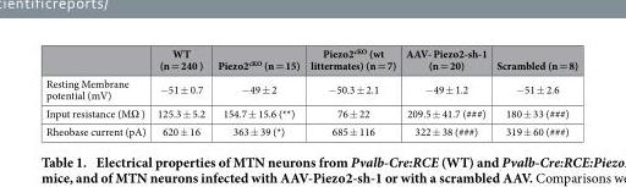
<table><thead><tr><td></td><td>WT (n = 240 )</td><td>Piezo2<sup>cKO</sup> (n = 15)</td><td>Piezo2<sup>cKO</sup> (wt littermates) (n = 7)</td><td>AAV- Piezo2-sh-1 (n = 20)</td><td>Scrambled (n = 8)</td></tr></thead><tbody><tr><td>Resting Membrane potential (mV)</td><td>− 51 ± 0.7</td><td>− 49 ± 2</td><td>− 50.3 ± 2.1</td><td>− 49 ± 1.2</td><td>− 51 ± 2.6</td></tr><tr><td>Input resistance (MΩ )</td><td>125.3 ± 5.2</td><td>154.7 ± 15.6 (**)</td><td>76 ± 22</td><td>209.5 ± 41.7 (###)</td><td>180 ± 33 (###)</td></tr><tr><td>Rheobase current (pA)</td><td>620 ± 16</td><td>363 ± 39 (*)</td><td>685 ± 116</td><td>322 ± 38 (###)</td><td>319 ± 60 (###)</td></tr></tbody></table>